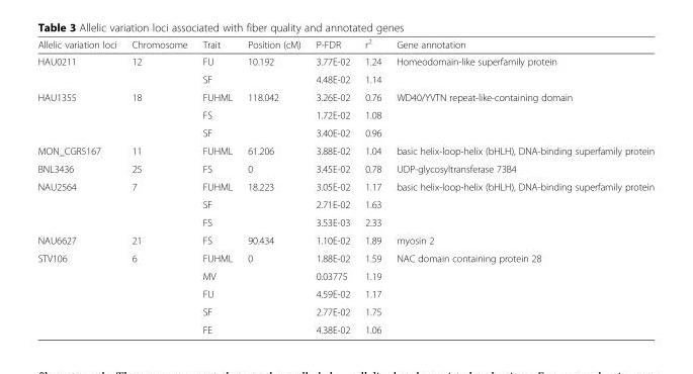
<table><thead><tr><td>Allelic variation loci</td><td>Chromosome</td><td>Trait</td><td>Position (cM)</td><td>P-FDR</td><td>r<sup>2</sup></td><td>Gene annotation</td></tr></thead><tbody><tr><td rowspan="2">HAU0211</td><td>12</td><td>FU</td><td>10.192</td><td>3.77E-02</td><td>1.24</td><td rowspan="2">Homeodomain-like superfamily protein</td></tr><tr><td></td><td>SF</td><td></td><td>4.48E-02</td><td>1.14</td></tr><tr><td rowspan="3">HAU1355</td><td>18</td><td>FUHML</td><td>118.042</td><td>3.26E-02</td><td>0.76</td><td rowspan="3">WD40/YVTN repeat-like-containing domain</td></tr><tr><td></td><td>FS</td><td></td><td>1.72E-02</td><td>1.08</td></tr><tr><td></td><td>SF</td><td></td><td>3.40E-02</td><td>0.96</td></tr><tr><td>MON_CGR5167</td><td>11</td><td>FUHML</td><td>61.206</td><td>3.88E-02</td><td>1.04</td><td>basic helix-loop-helix (bHLH), DNA-binding superfamily protein</td></tr><tr><td>BNL3436</td><td>25</td><td>FS</td><td>0</td><td>3.45E-02</td><td>0.78</td><td>UDP-glycosyltransferase 73B4</td></tr><tr><td rowspan="3">NAU2564</td><td>7</td><td>FUHML</td><td>18.223</td><td>3.05E-02</td><td>1.17</td><td rowspan="3">basic helix-loop-helix (bHLH), DNA-binding superfamily protein</td></tr><tr><td></td><td>SF</td><td></td><td>2.71E-02</td><td>1.63</td></tr><tr><td></td><td>FS</td><td></td><td>3.53E-03</td><td>2.33</td></tr><tr><td>NAU6627</td><td>21</td><td>FS</td><td>90.434</td><td>1.10E-02</td><td>1.89</td><td>myosin 2</td></tr><tr><td rowspan="5">STV106</td><td>6</td><td>FUHML</td><td>0</td><td>1.88E-02</td><td>1.59</td><td rowspan="5">NAC domain containing protein 28</td></tr><tr><td></td><td>MV</td><td></td><td>0.03775</td><td>1.19</td></tr><tr><td></td><td>FU</td><td></td><td>4.59E-02</td><td>1.17</td></tr><tr><td></td><td>SF</td><td></td><td>2.77E-02</td><td>1.75</td></tr><tr><td></td><td>FE</td><td></td><td>4.38E-02</td><td>1.06</td></tr></tbody></table>